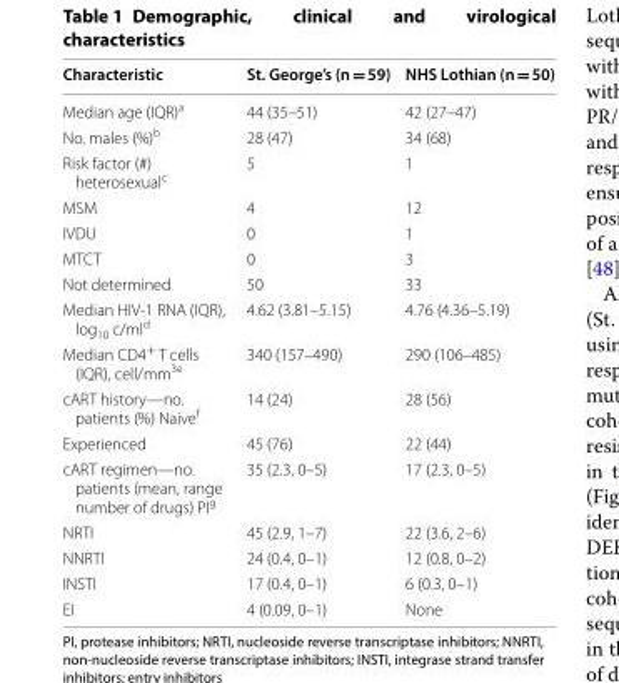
<table><thead><tr><td>Characteristic</td><td>St. George’s (n = 59)</td><td>NHS Lothian (n = 50)</td></tr></thead><tbody><tr><td>Median age (IQR)<sup>a</sup></td><td>44 (35–51)</td><td>42 (27–47)</td></tr><tr><td>No. males (%)<sup>b</sup></td><td>28 (47)</td><td>34 (68)</td></tr><tr><td>Risk factor (#) heterosexual<sup>c</sup></td><td>5</td><td>1</td></tr><tr><td>MSM</td><td>4</td><td>12</td></tr><tr><td>IVDU</td><td>0</td><td>1</td></tr><tr><td>MTCT</td><td>0</td><td>3</td></tr><tr><td>Not determined</td><td>50</td><td>33</td></tr><tr><td>Median HIV‑1 RNA (IQR), log<sub>10</sub> c/ml<sup>d</sup></td><td>4.62 (3.81–5.15)</td><td>4.76 (4.36–5.19)</td></tr><tr><td>Median CD4<sup>+</sup> T cells (IQR), cell/mm<sup>3e</sup></td><td>340 (157–490)</td><td>290 (106–485)</td></tr><tr><td>cART history—no. patients (%) Naive<sup>f</sup></td><td>14 (24)</td><td>28 (56)</td></tr><tr><td>Experienced</td><td>45 (76)</td><td>22 (44)</td></tr><tr><td>cART regimen—no. patients (mean, range number of drugs) PI<sup>g</sup></td><td>35 (2.3, 0–5)</td><td>17 (2.3, 0–5)</td></tr><tr><td>NRTI</td><td>45 (2.9, 1–7)</td><td>22 (3.6, 2–6)</td></tr><tr><td>NNRTI</td><td>24 (0.4, 0–1)</td><td>12 (0.8, 0–2)</td></tr><tr><td>INSTI</td><td>17 (0.4, 0–1)</td><td>6 (0.3, 0–1)</td></tr><tr><td>EI</td><td>4 (0.09, 0–1)</td><td>None</td></tr></tbody></table>